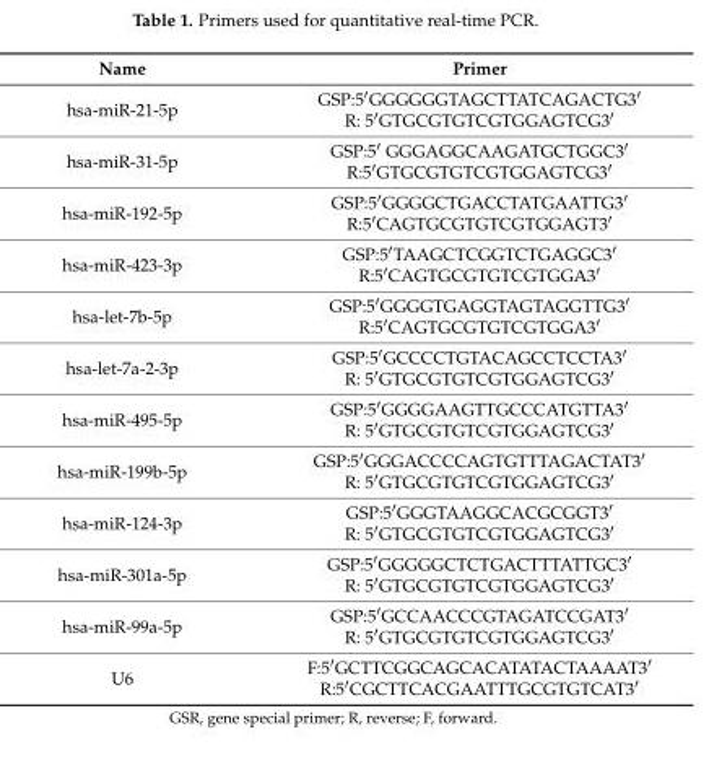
<table><thead><tr><td>Name</td><td>Primer</td></tr></thead><tbody><tr><td>hsa-miR-21-5p</td><td>GSP:5′GGGGGGTAGCTTATCAGACTG3′ R: 5′GTGCGTGTCGTGGAGTCG3′</td></tr><tr><td>hsa-miR-31-5p</td><td>GSP:5′ GGGAGGCAAGATGCTGGC3′ R:5′GTGCGTGTCGTGGAGTCG3′</td></tr><tr><td>hsa-miR-192-5p</td><td>GSP:5′GGGGCTGACCTATGAATTG3′ R:5′CAGTGCGTGTCGTGGAGT3′</td></tr><tr><td>hsa-miR-423-3p</td><td>GSP:5′TAAGCTCGGTCTGAGGC3′ R:5′CAGTGCGTGTCGTGGA3′</td></tr><tr><td>hsa-let-7b-5p</td><td>GSP:5′GGGGTGAGGTAGTAGGTTG3′ R:5′CAGTGCGTGTCGTGGA3′</td></tr><tr><td>hsa-let-7a-2-3p</td><td>GSP:5′GCCCCTGTACAGCCTCCTA3′ R: 5′GTGCGTGTCGTGGAGTCG3′</td></tr><tr><td>hsa-miR-495-5p</td><td>GSP:5′GGGGAAGTTGCCCATGTTA3′ R: 5′GTGCGTGTCGTGGAGTCG3′</td></tr><tr><td>hsa-miR-199b-5p</td><td>GSP:5′GGGACCCCAGTGTTTAGACTAT3′ R: 5′GTGCGTGTCGTGGAGTCG3′</td></tr><tr><td>hsa-miR-124-3p</td><td>GSP:5′GGGTAAGGCACGCGGT3′ R: 5′GTGCGTGTCGTGGAGTCG3′</td></tr><tr><td>hsa-miR-301a-5p</td><td>GSP:5′GGGGGCTCTGACTTTATTGC3′ R: 5′GTGCGTGTCGTGGAGTCG3′</td></tr><tr><td>hsa-miR-99a-5p</td><td>GSP:5′GCCAACCCGTAGATCCGAT3′ R: 5′GTGCGTGTCGTGGAGTCG3′</td></tr><tr><td>U6</td><td>F:5′GCTTCGGCAGCACATATACTAAAAT3′ R:5′CGCTTCACGAATTTGCGTGTCAT3′</td></tr></tbody></table>